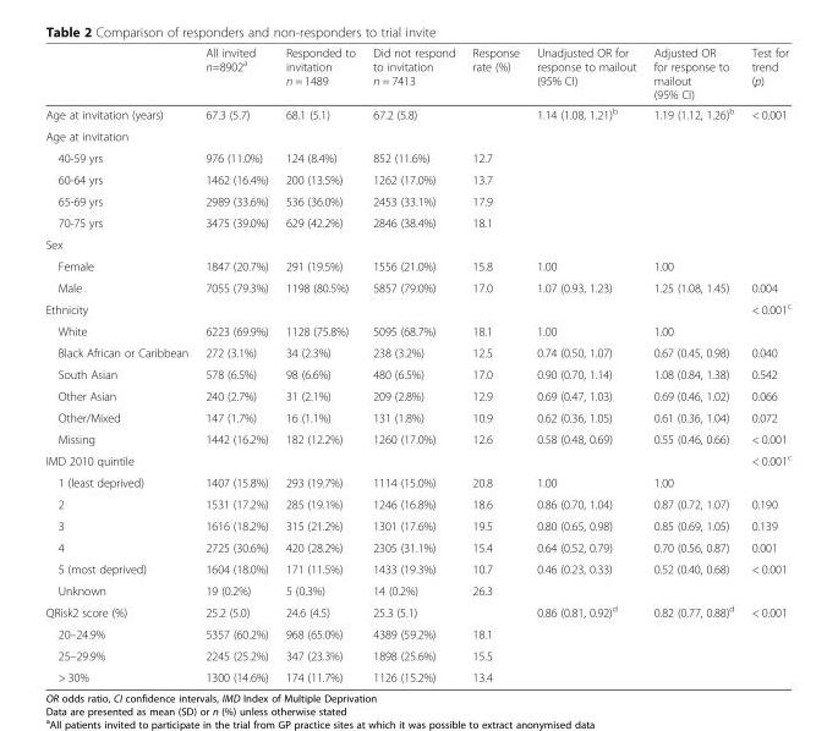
<table><thead><tr><td></td><td>All invited n=8902<sup>a</sup></td><td>Responded to invitation n = 1489</td><td>Did not respond to invitation n = 7413</td><td>Response rate (%)</td><td>Unadjusted OR for response to mailout (95% CI)</td><td>Adjusted OR for response to mailout (95% CI)</td><td>Test for trend (p)</td></tr></thead><tbody><tr><td>Age at invitation (years)</td><td>67.3 (5.7)</td><td>68.1 (5.1)</td><td>67.2 (5.8)</td><td></td><td>1.14 (1.08, 1.21)<sup>b</sup></td><td>1.19 (1.12, 1.26)<sup>b</sup></td><td>&lt; 0.001</td></tr><tr><td colspan="8">Age at invitation</td></tr><tr><td>40-59 yrs</td><td>976 (11.0%)</td><td>124 (8.4%)</td><td>852 (11.6%)</td><td>12.7</td><td></td><td></td><td></td></tr><tr><td>60-64 yrs</td><td>1462 (16.4%)</td><td>200 (13.5%)</td><td>1262 (17.0%)</td><td>13.7</td><td></td><td></td><td></td></tr><tr><td>65-69 yrs</td><td>2989 (33.6%)</td><td>536 (36.0%)</td><td>2453 (33.1%)</td><td>17.9</td><td></td><td></td><td></td></tr><tr><td>70-75 yrs</td><td>3475 (39.0%)</td><td>629 (42.2%)</td><td>2846 (38.4%)</td><td>18.1</td><td></td><td></td><td></td></tr><tr><td colspan="8">Sex</td></tr><tr><td>Female</td><td>1847 (20.7%)</td><td>291 (19.5%)</td><td>1556 (21.0%)</td><td>15.8</td><td>1.00</td><td>1.00</td><td></td></tr><tr><td>Male</td><td>7055 (79.3%)</td><td>1198 (80.5%)</td><td>5857 (79.0%)</td><td>17.0</td><td>1.07 (0.93, 1.23)</td><td>1.25 (1.08, 1.45)</td><td>0.004</td></tr><tr><td colspan="7">Ethnicity</td><td>&lt; 0.001<sup>c</sup></td></tr><tr><td>White</td><td>6223 (69.9%)</td><td>1128 (75.8%)</td><td>5095 (68.7%)</td><td>18.1</td><td>1.00</td><td>1.00</td><td></td></tr><tr><td>Black African or Caribbean</td><td>272 (3.1%)</td><td>34 (2.3%)</td><td>238 (3.2%)</td><td>12.5</td><td>0.74 (0.50, 1.07)</td><td>0.67 (0.45, 0.98)</td><td>0.040</td></tr><tr><td>South Asian</td><td>578 (6.5%)</td><td>98 (6.6%)</td><td>480 (6.5%)</td><td>17.0</td><td>0.90 (0.70, 1.14)</td><td>1.08 (0.84, 1.38)</td><td>0.542</td></tr><tr><td>Other Asian</td><td>240 (2.7%)</td><td>31 (2.1%)</td><td>209 (2.8%)</td><td>12.9</td><td>0.69 (0.47, 1.03)</td><td>0.69 (0.46, 1.02)</td><td>0.066</td></tr><tr><td>Other/Mixed</td><td>147 (1.7%)</td><td>16 (1.1%)</td><td>131 (1.8%)</td><td>10.9</td><td>0.62 (0.36, 1.05)</td><td>0.61 (0.36, 1.04)</td><td>0.072</td></tr><tr><td>Missing</td><td>1442 (16.2%)</td><td>182 (12.2%)</td><td>1260 (17.0%)</td><td>12.6</td><td>0.58 (0.48, 0.69)</td><td>0.55 (0.46, 0.66)</td><td>&lt; 0.001</td></tr><tr><td colspan="7">IMD 2010 quintile</td><td>&lt; 0.001<sup>c</sup></td></tr><tr><td>1 (least deprived)</td><td>1407 (15.8%)</td><td>293 (19.7%)</td><td>1114 (15.0%)</td><td>20.8</td><td>1.00</td><td>1.00</td><td></td></tr><tr><td>2</td><td>1531 (17.2%)</td><td>285 (19.1%)</td><td>1246 (16.8%)</td><td>18.6</td><td>0.86 (0.70, 1.04)</td><td>0.87 (0.72, 1.07)</td><td>0.190</td></tr><tr><td>3</td><td>1616 (18.2%)</td><td>315 (21.2%)</td><td>1301 (17.6%)</td><td>19.5</td><td>0.80 (0.65, 0.98)</td><td>0.85 (0.69, 1.05)</td><td>0.139</td></tr><tr><td>4</td><td>2725 (30.6%)</td><td>420 (28.2%)</td><td>2305 (31.1%)</td><td>15.4</td><td>0.64 (0.52, 0.79)</td><td>0.70 (0.56, 0.87)</td><td>0.001</td></tr><tr><td>5 (most deprived)</td><td>1604 (18.0%)</td><td>171 (11.5%)</td><td>1433 (19.3%)</td><td>10.7</td><td>0.46 (0.23, 0.33)</td><td>0.52 (0.40, 0.68)</td><td>&lt; 0.001</td></tr><tr><td>Unknown</td><td>19 (0.2%)</td><td>5 (0.3%)</td><td>14 (0.2%)</td><td>26.3</td><td></td><td></td><td></td></tr><tr><td>QRisk2 score (%)</td><td>25.2 (5.0)</td><td>24.6 (4.5)</td><td>25.3 (5.1)</td><td></td><td>0.86 (0.81, 0.92)<sup>d</sup></td><td>0.82 (0.77, 0.88)<sup>d</sup></td><td>&lt; 0.001</td></tr><tr><td>20–24.9%</td><td>5357 (60.2%)</td><td>968 (65.0%)</td><td>4389 (59.2%)</td><td>18.1</td><td></td><td></td><td></td></tr><tr><td>25–29.9%</td><td>2245 (25.2%)</td><td>347 (23.3%)</td><td>1898 (25.6%)</td><td>15.5</td><td></td><td></td><td></td></tr><tr><td>&gt; 30%</td><td>1300 (14.6%)</td><td>174 (11.7%)</td><td>1126 (15.2%)</td><td>13.4</td><td></td><td></td><td></td></tr></tbody></table>